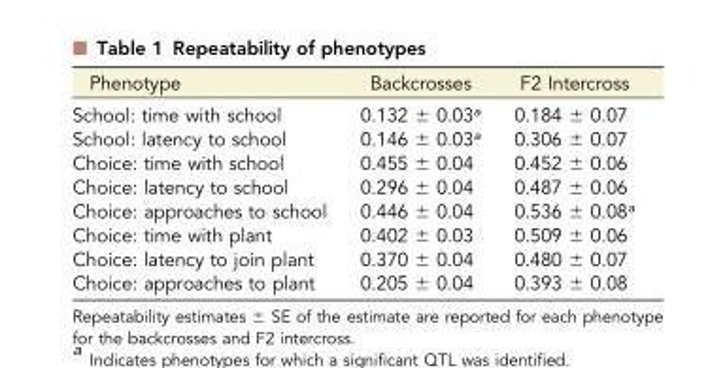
<table><thead><tr><td>Phenotype</td><td>Backcrosses</td><td>F2 Intercross</td></tr></thead><tbody><tr><td>School: time with school</td><td>0.132 ± 0.03<sup>a</sup></td><td>0.184 ± 0.07</td></tr><tr><td>School: latency to school</td><td>0.146 ± 0.03<sup>a</sup></td><td>0.306 ± 0.07</td></tr><tr><td>Choice: time with school</td><td>0.455 ± 0.04</td><td>0.452 ± 0.06</td></tr><tr><td>Choice: latency to school</td><td>0.296 ± 0.04</td><td>0.487 ± 0.06</td></tr><tr><td>Choice: approaches to school</td><td>0.446 ± 0.04</td><td>0.536 ± 0.08<sup>a</sup></td></tr><tr><td>Choice: time with plant</td><td>0.402 ± 0.03</td><td>0.509 ± 0.06</td></tr><tr><td>Choice: latency to join plant</td><td>0.370 ± 0.04</td><td>0.480 ± 0.07</td></tr><tr><td>Choice: approaches to plant</td><td>0.205 ± 0.04</td><td>0.393 ± 0.08</td></tr></tbody></table>